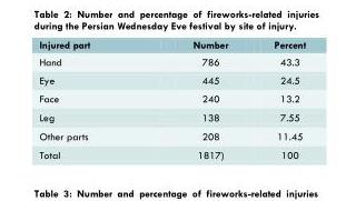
<table><thead><tr><td>Injured part</td><td>Number</td><td>Percent</td></tr></thead><tbody><tr><td>Hand</td><td>786</td><td>43.3</td></tr><tr><td>Eye</td><td>445</td><td>24.5</td></tr><tr><td>Face</td><td>240</td><td>13.2</td></tr><tr><td>Leg</td><td>138</td><td>7.55</td></tr><tr><td>Other parts</td><td>208</td><td>11.45</td></tr><tr><td>Total</td><td>1817)</td><td>100</td></tr></tbody></table>